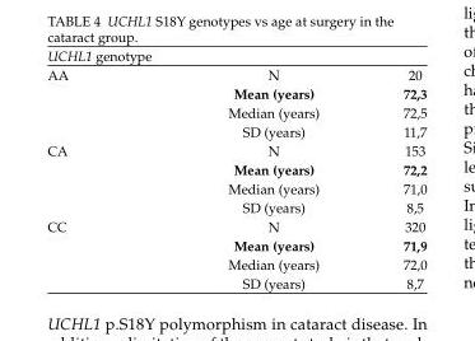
<table><thead><tr><td colspan="3">UCHL1 genotype</td></tr><tr><td>AA</td><td>N</td><td>20</td></tr></thead><tbody><tr><td></td><td>Mean (years)</td><td>72,3</td></tr><tr><td></td><td>Median (years)</td><td>72,5</td></tr><tr><td></td><td>SD (years)</td><td>11,7</td></tr><tr><td rowspan="4">CA</td><td>N</td><td>153</td></tr><tr><td>Mean (years)</td><td>72,2</td></tr><tr><td>Median (years)</td><td>71,0</td></tr><tr><td>SD (years)</td><td>8,5</td></tr><tr><td rowspan="4">CC</td><td>N</td><td>320</td></tr><tr><td>Mean (years)</td><td>71,9</td></tr><tr><td>Median (years)</td><td>72,0</td></tr><tr><td>SD (years)</td><td>8,7</td></tr></tbody></table>